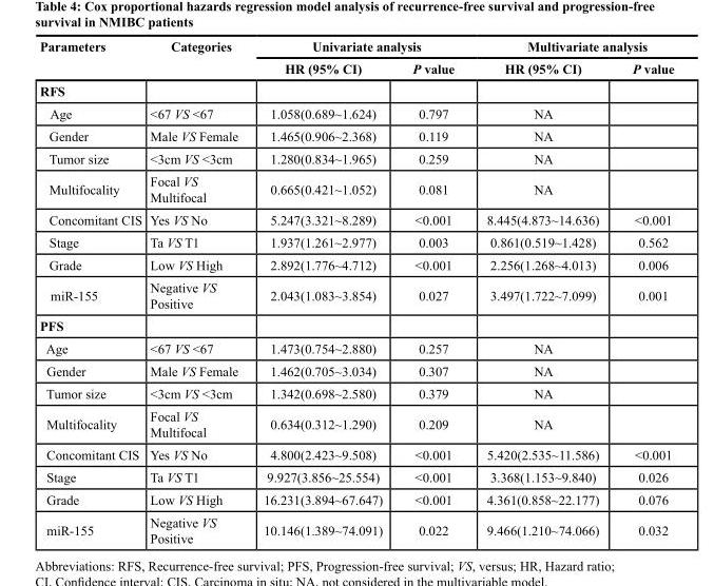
<table><thead><tr><td rowspan="2">Parameters</td><td rowspan="2">Categories</td><td colspan="2">Univariate analysis</td><td colspan="2">Multivariate analysis</td></tr><tr><td>HR (95% CI)</td><td>P value</td><td>HR (95% CI)</td><td>P value</td></tr></thead><tbody><tr><td colspan="6">RFS</td></tr><tr><td>Age</td><td>&lt;67 VS &lt;67</td><td>1.058(0.689~1.624)</td><td>0.797</td><td>NA</td><td></td></tr><tr><td>Gender</td><td>Male VS Female</td><td>1.465(0.906~2.368)</td><td>0.119</td><td>NA</td><td></td></tr><tr><td>Tumor size</td><td>&lt;3cm VS &lt;3cm</td><td>1.280(0.834~1.965)</td><td>0.259</td><td>NA</td><td></td></tr><tr><td>Multifocality</td><td>Focal VS Multifocal</td><td>0.665(0.421~1.052)</td><td>0.081</td><td>NA</td><td></td></tr><tr><td>Concomitant CIS</td><td>Yes VS No</td><td>5.247(3.321~8.289)</td><td>&lt;0.001</td><td>8.445(4.873~14.636)</td><td>&lt;0.001</td></tr><tr><td>Stage</td><td>Ta VS T1</td><td>1.937(1.261~2.977)</td><td>0.003</td><td>0.861(0.519~1.428)</td><td>0.562</td></tr><tr><td>Grade</td><td>Low VS High</td><td>2.892(1.776~4.712)</td><td>&lt;0.001</td><td>2.256(1.268~4.013)</td><td>0.006</td></tr><tr><td>miR-155</td><td>Negative VS Positive</td><td>2.043(1.083~3.854)</td><td>0.027</td><td>3.497(1.722~7.099)</td><td>0.001</td></tr><tr><td colspan="6">PFS</td></tr><tr><td>Age</td><td>&lt;67 VS &lt;67</td><td>1.473(0.754~2.880)</td><td>0.257</td><td>NA</td><td></td></tr><tr><td>Gender</td><td>Male VS Female</td><td>1.462(0.705~3.034)</td><td>0.307</td><td>NA</td><td></td></tr><tr><td>Tumor size</td><td>&lt;3cm VS &lt;3cm</td><td>1.342(0.698~2.580)</td><td>0.379</td><td>NA</td><td></td></tr><tr><td>Multifocality</td><td>Focal VS Multifocal</td><td>0.634(0.312~1.290)</td><td>0.209</td><td>NA</td><td></td></tr><tr><td>Concomitant CIS</td><td>Yes VS No</td><td>4.800(2.423~9.508)</td><td>&lt;0.001</td><td>5.420(2.535~11.586)</td><td>&lt;0.001</td></tr><tr><td>Stage</td><td>Ta VS T1</td><td>9.927(3.856~25.554)</td><td>&lt;0.001</td><td>3.368(1.153~9.840)</td><td>0.026</td></tr><tr><td>Grade</td><td>Low VS High</td><td>16.231(3.894~67.647)</td><td>&lt;0.001</td><td>4.361(0.858~22.177)</td><td>0.076</td></tr><tr><td>miR-155</td><td>Negative VS Positive</td><td>10.146(1.389~74.091)</td><td>0.022</td><td>9.466(1.210~74.066)</td><td>0.032</td></tr></tbody></table>